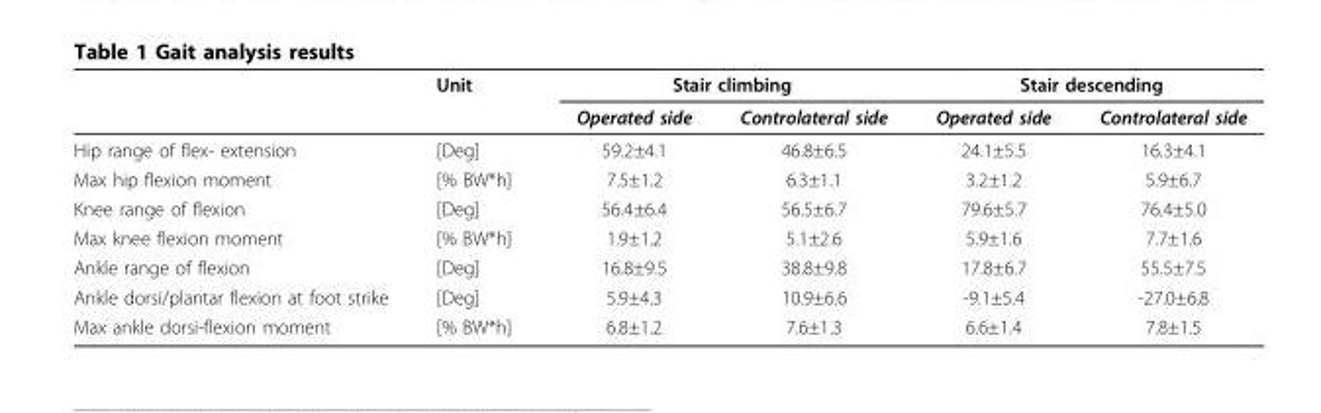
<table><thead><tr><td rowspan="2"></td><td rowspan="2">Unit</td><td colspan="2">Stair climbing</td><td colspan="2">Stair descending</td></tr><tr><td>Operated side</td><td>Controlateral side</td><td>Operated side</td><td>Controlateral side</td></tr></thead><tbody><tr><td>Hip range of flex- extension</td><td>[Deg]</td><td>59.2±4.1</td><td>46.8±6.5</td><td>24.1±5.5</td><td>16.3±4.1</td></tr><tr><td>Max hip flexion moment</td><td>[% BW*h]</td><td>7.5±1.2</td><td>6.3±1.1</td><td>3.2±1.2</td><td>5.9±6.7</td></tr><tr><td>Knee range of flexion</td><td>[Deg]</td><td>56.4±6.4</td><td>56.5±6.7</td><td>79.6±5.7</td><td>76.4±5.0</td></tr><tr><td>Max knee flexion moment</td><td>[% BW*h]</td><td>1.9±1.2</td><td>5.1±2.6</td><td>5.9±1.6</td><td>7.7±1.6</td></tr><tr><td>Ankle range of flexion</td><td>[Deg]</td><td>16.8±9.5</td><td>38.8±9.8</td><td>17.8±6.7</td><td>55.5±7.5</td></tr><tr><td>Ankle dorsi/plantar flexion at foot strike</td><td>[Deg]</td><td>5.9±4.3</td><td>10.9±6.6</td><td>-9.1±5.4</td><td>-27.0±6.8</td></tr><tr><td>Max ankle dorsi-flexion moment</td><td>[% BW*h]</td><td>6.8±1.2</td><td>7.6±1.3</td><td>6.6±1.4</td><td>7.8±1.5</td></tr></tbody></table>